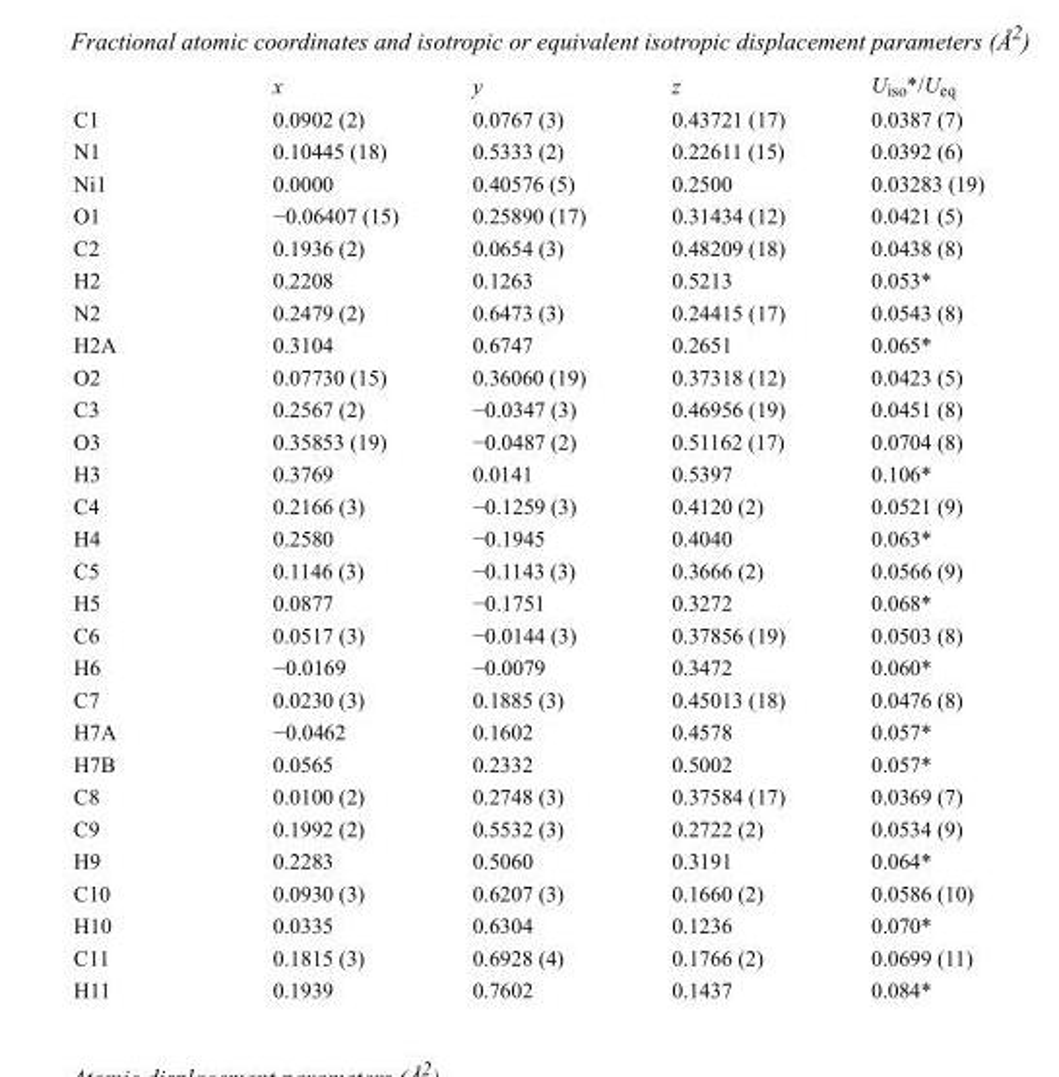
<table><thead><tr><td></td><td>x</td><td>y</td><td>z</td><td>U<sub>iso</sub>*/U<sub>eq</sub></td></tr></thead><tbody><tr><td>C1</td><td>0.0902 (2)</td><td>0.0767 (3)</td><td>0.43721 (17)</td><td>0.0387 (7)</td></tr><tr><td>N1</td><td>0.10445 (18)</td><td>0.5333 (2)</td><td>0.22611 (15)</td><td>0.0392 (6)</td></tr><tr><td>Ni1</td><td>0.0000</td><td>0.40576 (5)</td><td>0.2500</td><td>0.03283 (19)</td></tr><tr><td>O1</td><td>−0.06407 (15)</td><td>0.25890 (17)</td><td>0.31434 (12)</td><td>0.0421 (5)</td></tr><tr><td>C2</td><td>0.1936 (2)</td><td>0.0654 (3)</td><td>0.48209 (18)</td><td>0.0438 (8)</td></tr><tr><td>H2</td><td>0.2208</td><td>0.1263</td><td>0.5213</td><td>0.053*</td></tr><tr><td>N2</td><td>0.2479 (2)</td><td>0.6473 (3)</td><td>0.24415 (17)</td><td>0.0543 (8)</td></tr><tr><td>H2A</td><td>0.3104</td><td>0.6747</td><td>0.2651</td><td>0.065*</td></tr><tr><td>O2</td><td>0.07730 (15)</td><td>0.36060 (19)</td><td>0.37318 (12)</td><td>0.0423 (5)</td></tr><tr><td>C3</td><td>0.2567 (2)</td><td>−0.0347 (3)</td><td>0.46956 (19)</td><td>0.0451 (8)</td></tr><tr><td>O3</td><td>0.35853 (19)</td><td>−0.0487 (2)</td><td>0.51162 (17)</td><td>0.0704 (8)</td></tr><tr><td>H3</td><td>0.3769</td><td>0.0141</td><td>0.5397</td><td>0.106*</td></tr><tr><td>C4</td><td>0.2166 (3)</td><td>−0.1259 (3)</td><td>0.4120 (2)</td><td>0.0521 (9)</td></tr><tr><td>H4</td><td>0.2580</td><td>−0.1945</td><td>0.4040</td><td>0.063*</td></tr><tr><td>C5</td><td>0.1146 (3)</td><td>−0.1143 (3)</td><td>0.3666 (2)</td><td>0.0566 (9)</td></tr><tr><td>H5</td><td>0.0877</td><td>−0.1751</td><td>0.3272</td><td>0.068*</td></tr><tr><td>C6</td><td>0.0517 (3)</td><td>−0.0144 (3)</td><td>0.37856 (19)</td><td>0.0503 (8)</td></tr><tr><td>H6</td><td>−0.0169</td><td>−0.0079</td><td>0.3472</td><td>0.060*</td></tr><tr><td>C7</td><td>0.0230 (3)</td><td>0.1885 (3)</td><td>0.45013 (18)</td><td>0.0476 (8)</td></tr><tr><td>H7A</td><td>−0.0462</td><td>0.1602</td><td>0.4578</td><td>0.057*</td></tr><tr><td>H7B</td><td>0.0565</td><td>0.2332</td><td>0.5002</td><td>0.057*</td></tr><tr><td>C8</td><td>0.0100 (2)</td><td>0.2748 (3)</td><td>0.37584 (17)</td><td>0.0369 (7)</td></tr><tr><td>C9</td><td>0.1992 (2)</td><td>0.5532 (3)</td><td>0.2722 (2)</td><td>0.0534 (9)</td></tr><tr><td>H9</td><td>0.2283</td><td>0.5060</td><td>0.3191</td><td>0.064*</td></tr><tr><td>C10</td><td>0.0930 (3)</td><td>0.6207 (3)</td><td>0.1660 (2)</td><td>0.0586 (10)</td></tr><tr><td>H10</td><td>0.0335</td><td>0.6304</td><td>0.1236</td><td>0.070*</td></tr><tr><td>C11</td><td>0.1815 (3)</td><td>0.6928 (4)</td><td>0.1766 (2)</td><td>0.0699 (11)</td></tr><tr><td>H11</td><td>0.1939</td><td>0.7602</td><td>0.1437</td><td>0.084*</td></tr></tbody></table>